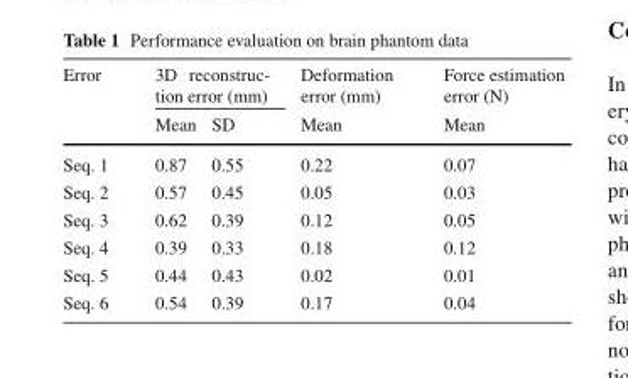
<table><thead><tr><td rowspan="2">Error</td><td colspan="2">3D reconstruc- tion error (mm)</td><td rowspan="2">Deformation error (mm) Mean</td><td rowspan="2">Force estimation error (N) Mean</td></tr><tr><td>Mean</td><td>SD</td></tr></thead><tbody><tr><td>Seq. 1</td><td>0.87</td><td>0.55</td><td>0.22</td><td>0.07</td></tr><tr><td>Seq. 2</td><td>0.57</td><td>0.45</td><td>0.05</td><td>0.03</td></tr><tr><td>Seq. 3</td><td>0.62</td><td>0.39</td><td>0.12</td><td>0.05</td></tr><tr><td>Seq. 4</td><td>0.39</td><td>0.33</td><td>0.18</td><td>0.12</td></tr><tr><td>Seq. 5</td><td>0.44</td><td>0.43</td><td>0.02</td><td>0.01</td></tr><tr><td>Seq. 6</td><td>0.54</td><td>0.39</td><td>0.17</td><td>0.04</td></tr></tbody></table>